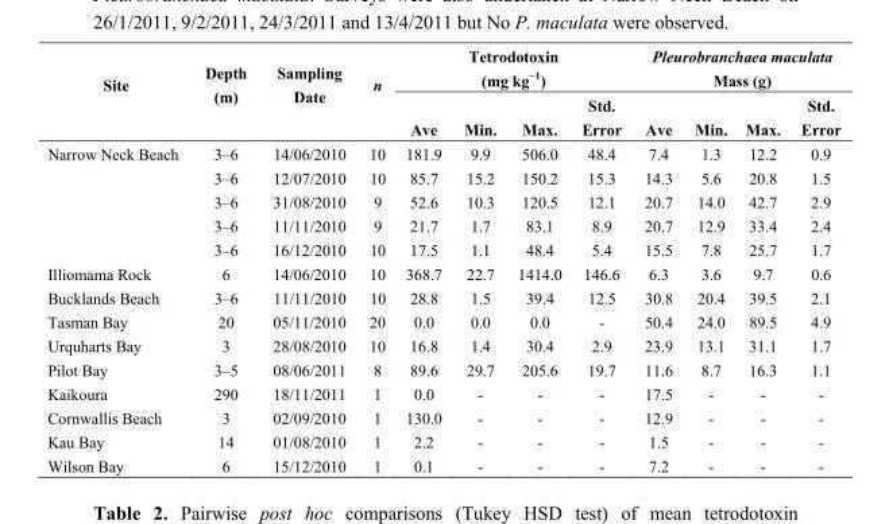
<table><thead><tr><td rowspan="2">Site</td><td rowspan="2">Depth (m)</td><td rowspan="2">Sampling Date</td><td rowspan="2">n</td><td colspan="4">Tetrodotoxin (mg kg<sup>−1</sup>)</td><td colspan="4">Pleurobranchaea maculata Mass (g)</td></tr><tr><td>Ave</td><td>Min.</td><td>Max.</td><td>Std. Error</td><td>Ave</td><td>Min.</td><td>Max.</td><td>Std. Error</td></tr></thead><tbody><tr><td rowspan="5">Narrow Neck Beach</td><td>3–6</td><td>14/06/2010</td><td>10</td><td>181.9</td><td>9.9</td><td>506.0</td><td>48.4</td><td>7.4</td><td>1.3</td><td>12.2</td><td>0.9</td></tr><tr><td>3–6</td><td>12/07/2010</td><td>10</td><td>85.7</td><td>15.2</td><td>150.2</td><td>15.3</td><td>14.3</td><td>5.6</td><td>20.8</td><td>1.5</td></tr><tr><td>3–6</td><td>31/08/2010</td><td>9</td><td>52.6</td><td>10.3</td><td>120.5</td><td>12.1</td><td>20.7</td><td>14.0</td><td>42.7</td><td>2.9</td></tr><tr><td>3–6</td><td>11/11/2010</td><td>9</td><td>21.7</td><td>1.7</td><td>83.1</td><td>8.9</td><td>20.7</td><td>12.9</td><td>33.4</td><td>2.4</td></tr><tr><td>3–6</td><td>16/12/2010</td><td>10</td><td>17.5</td><td>1.1</td><td>48.4</td><td>5.4</td><td>15.5</td><td>7.8</td><td>25.7</td><td>1.7</td></tr><tr><td>Illiomama Rock</td><td>6</td><td>14/06/2010</td><td>10</td><td>368.7</td><td>22.7</td><td>1414.0</td><td>146.6</td><td>6.3</td><td>3.6</td><td>9.7</td><td>0.6</td></tr><tr><td>Bucklands Beach</td><td>3–6</td><td>11/11/2010</td><td>10</td><td>28.8</td><td>1.5</td><td>39.4</td><td>12.5</td><td>30.8</td><td>20.4</td><td>39.5</td><td>2.1</td></tr><tr><td>Tasman Bay</td><td>20</td><td>05/11/2010</td><td>20</td><td>0.0</td><td>0.0</td><td>0.0</td><td>-</td><td>50.4</td><td>24.0</td><td>89.5</td><td>4.9</td></tr><tr><td>Urquharts Bay</td><td>3</td><td>28/08/2010</td><td>10</td><td>16.8</td><td>1.4</td><td>30.4</td><td>2.9</td><td>23.9</td><td>13.1</td><td>31.1</td><td>1.7</td></tr><tr><td>Pilot Bay</td><td>3–5</td><td>08/06/2011</td><td>8</td><td>89.6</td><td>29.7</td><td>205.6</td><td>19.7</td><td>11.6</td><td>8.7</td><td>16.3</td><td>1.1</td></tr><tr><td>Kaikoura</td><td>290</td><td>18/11/2011</td><td>1</td><td>0.0</td><td>-</td><td>-</td><td>-</td><td>17.5</td><td>-</td><td>-</td><td>-</td></tr><tr><td>Cornwallis Beach</td><td>3</td><td>02/09/2010</td><td>1</td><td>130.0</td><td>-</td><td>-</td><td>-</td><td>12.9</td><td>-</td><td>-</td><td>-</td></tr><tr><td>Kau Bay</td><td>14</td><td>01/08/2010</td><td>1</td><td>2.2</td><td>-</td><td>-</td><td>-</td><td>1.5</td><td>-</td><td>-</td><td>-</td></tr><tr><td>Wilson Bay</td><td>6</td><td>15/12/2010</td><td>1</td><td>0.1</td><td>-</td><td>-</td><td>-</td><td>7.2</td><td>-</td><td>-</td><td>-</td></tr></tbody></table>